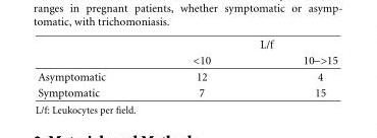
<table><thead><tr><td rowspan="2"></td><td colspan="2">L/f</td></tr><tr><td>&lt;10</td><td>10–&gt;15</td></tr></thead><tbody><tr><td>Asymptomatic</td><td>12</td><td>4</td></tr><tr><td>Symptomatic</td><td>7</td><td>15</td></tr></tbody></table>